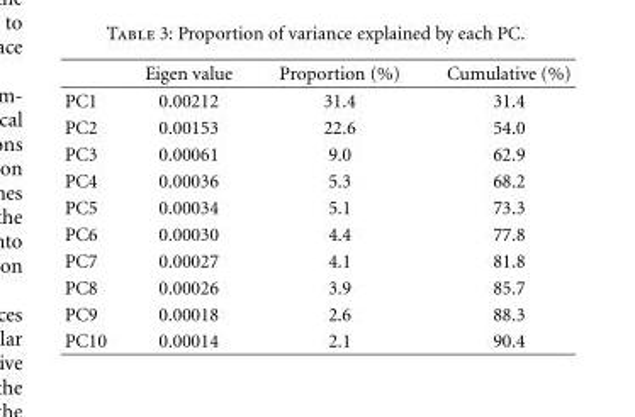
<table><thead><tr><td></td><td>Eigen value</td><td>Proportion (%)</td><td>Cumulative (%)</td></tr></thead><tbody><tr><td>PC1</td><td>0.00212</td><td>31.4</td><td>31.4</td></tr><tr><td>PC2</td><td>0.00153</td><td>22.6</td><td>54.0</td></tr><tr><td>PC3</td><td>0.00061</td><td>9.0</td><td>62.9</td></tr><tr><td>PC4</td><td>0.00036</td><td>5.3</td><td>68.2</td></tr><tr><td>PC5</td><td>0.00034</td><td>5.1</td><td>73.3</td></tr><tr><td>PC6</td><td>0.00030</td><td>4.4</td><td>77.8</td></tr><tr><td>PC7</td><td>0.00027</td><td>4.1</td><td>81.8</td></tr><tr><td>PC8</td><td>0.00026</td><td>3.9</td><td>85.7</td></tr><tr><td>PC9</td><td>0.00018</td><td>2.6</td><td>88.3</td></tr><tr><td>PC10</td><td>0.00014</td><td>2.1</td><td>90.4</td></tr></tbody></table>